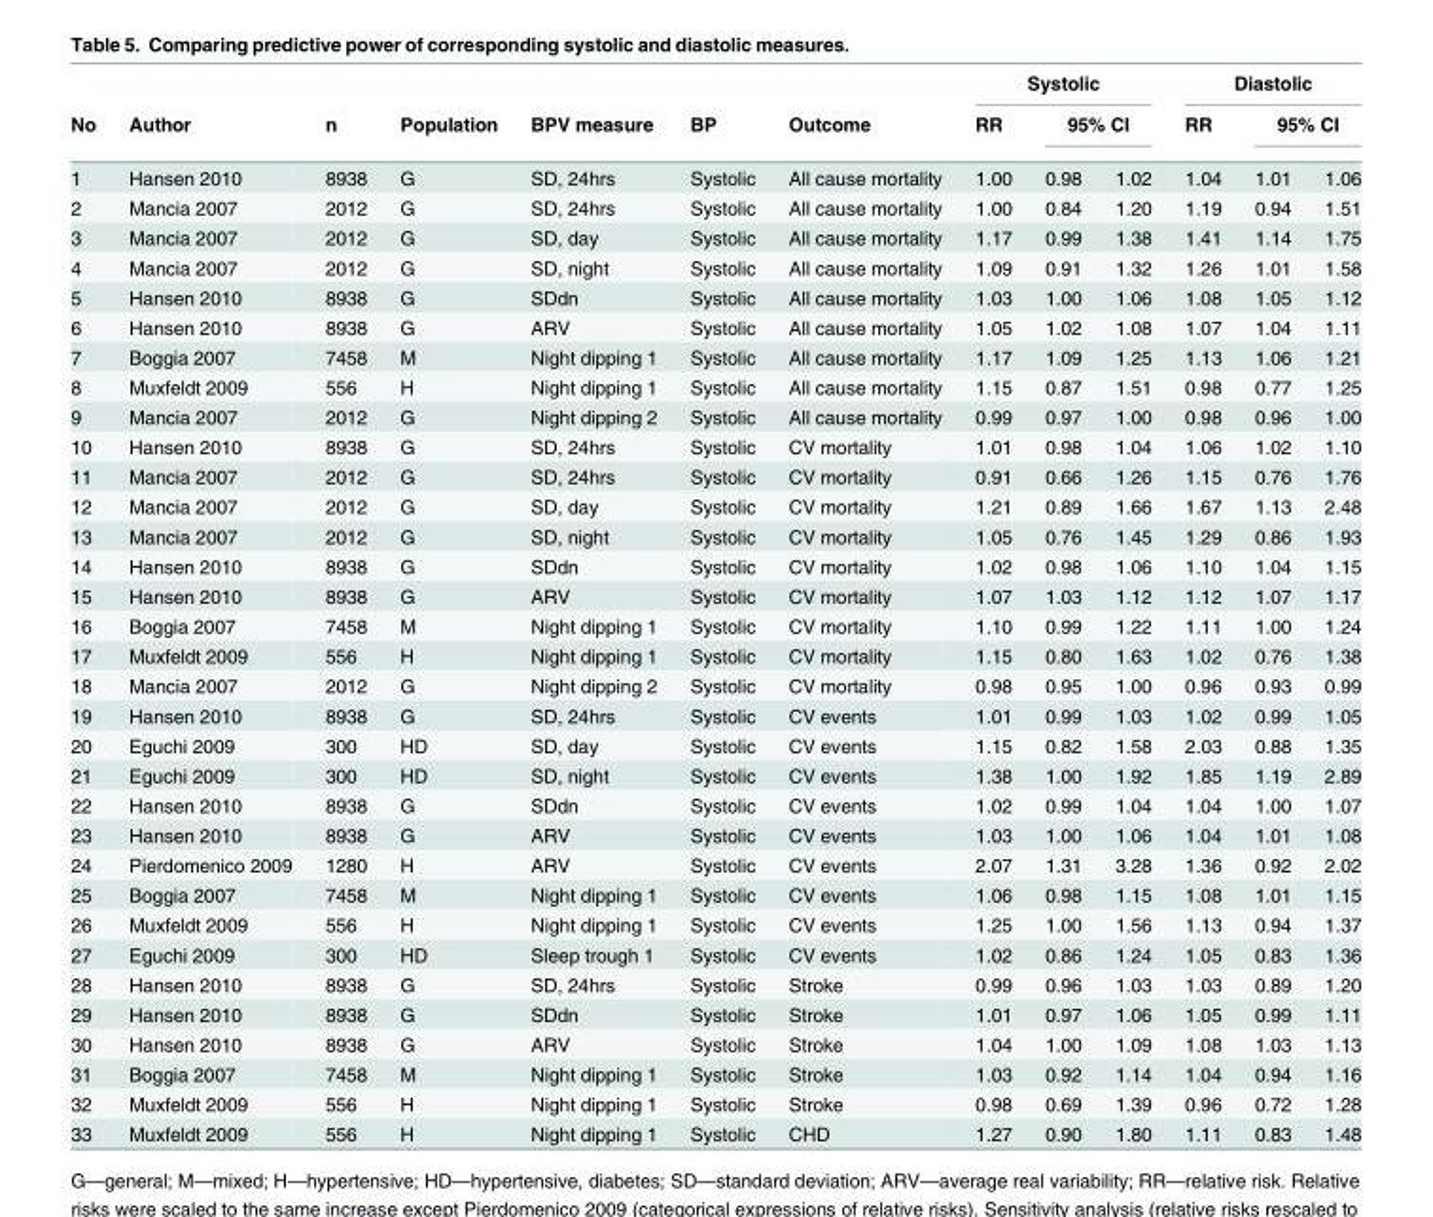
<table><thead><tr><td rowspan="3">No 1</td><td rowspan="3">Author Hansen 2010</td><td rowspan="3">n 8938</td><td rowspan="3">Population G</td><td rowspan="3">BPV measure SD, 24hrs</td><td rowspan="3">BP Systolic</td><td rowspan="3">Outcome All cause mortality</td><td colspan="3">Systolic</td><td colspan="3">Diastolic</td></tr><tr><td rowspan="2">RR 1.00</td><td colspan="2">95% CI</td><td rowspan="2">RR 1.04</td><td colspan="2">95% CI</td></tr><tr><td>0.98</td><td>1.02</td><td>1.01</td><td>1.06</td></tr></thead><tbody><tr><td>2</td><td>Mancia 2007</td><td>2012</td><td>G</td><td>SD, 24hrs</td><td>Systolic</td><td>All cause mortality</td><td>1.00</td><td>0.84</td><td>1.20</td><td>1.19</td><td>0.94</td><td>1.51</td></tr><tr><td>3</td><td>Mancia 2007</td><td>2012</td><td>G</td><td>SD, day</td><td>Systolic</td><td>All cause mortality</td><td>1.17</td><td>0.99</td><td>1.38</td><td>1.41</td><td>1.14</td><td>1.75</td></tr><tr><td>4</td><td>Mancia 2007</td><td>2012</td><td>G</td><td>SD, night</td><td>Systolic</td><td>All cause mortality</td><td>1.09</td><td>0.91</td><td>1.32</td><td>1.26</td><td>1.01</td><td>1.58</td></tr><tr><td>5</td><td>Hansen 2010</td><td>8938</td><td>G</td><td>SDdn</td><td>Systolic</td><td>All cause mortality</td><td>1.03</td><td>1.00</td><td>1.06</td><td>1.08</td><td>1.05</td><td>1.12</td></tr><tr><td>6</td><td>Hansen 2010</td><td>8938</td><td>G</td><td>ARV</td><td>Systolic</td><td>All cause mortality</td><td>1.05</td><td>1.02</td><td>1.08</td><td>1.07</td><td>1.04</td><td>1.11</td></tr><tr><td>7</td><td>Boggia 2007</td><td>7458</td><td>M</td><td>Night dipping 1</td><td>Systolic</td><td>All cause mortality</td><td>1.17</td><td>1.09</td><td>1.25</td><td>1.13</td><td>1.06</td><td>1.21</td></tr><tr><td>8</td><td>Muxfeldt 2009</td><td>556</td><td>H</td><td>Night dipping 1</td><td>Systolic</td><td>All cause mortality</td><td>1.15</td><td>0.87</td><td>1.51</td><td>0.98</td><td>0.77</td><td>1.25</td></tr><tr><td>9</td><td>Mancia 2007</td><td>2012</td><td>G</td><td>Night dipping 2</td><td>Systolic</td><td>All cause mortality</td><td>0.99</td><td>0.97</td><td>1.00</td><td>0.98</td><td>0.96</td><td>1.00</td></tr><tr><td>10</td><td>Hansen 2010</td><td>8938</td><td>G</td><td>SD, 24hrs</td><td>Systolic</td><td>CV mortality</td><td>1.01</td><td>0.98</td><td>1.04</td><td>1.06</td><td>1.02</td><td>1.10</td></tr><tr><td>11</td><td>Mancia 2007</td><td>2012</td><td>G</td><td>SD, 24hrs</td><td>Systolic</td><td>CV mortality</td><td>0.91</td><td>0.66</td><td>1.26</td><td>1.15</td><td>0.76</td><td>1.76</td></tr><tr><td>12</td><td>Mancia 2007</td><td>2012</td><td>G</td><td>SD, day</td><td>Systolic</td><td>CV mortality</td><td>1.21</td><td>0.89</td><td>1.66</td><td>1.67</td><td>1.13</td><td>2.48</td></tr><tr><td>13</td><td>Mancia 2007</td><td>2012</td><td>G</td><td>SD, night</td><td>Systolic</td><td>CV mortality</td><td>1.05</td><td>0.76</td><td>1.45</td><td>1.29</td><td>0.86</td><td>1.93</td></tr><tr><td>14</td><td>Hansen 2010</td><td>8938</td><td>G</td><td>SDdn</td><td>Systolic</td><td>CV mortality</td><td>1.02</td><td>0.98</td><td>1.06</td><td>1.10</td><td>1.04</td><td>1.15</td></tr><tr><td>15</td><td>Hansen 2010</td><td>8938</td><td>G</td><td>ARV</td><td>Systolic</td><td>CV mortality</td><td>1.07</td><td>1.03</td><td>1.12</td><td>1.12</td><td>1.07</td><td>1.17</td></tr><tr><td>16</td><td>Boggia 2007</td><td>7458</td><td>M</td><td>Night dipping 1</td><td>Systolic</td><td>CV mortality</td><td>1.10</td><td>0.99</td><td>1.22</td><td>1.11</td><td>1.00</td><td>1.24</td></tr><tr><td>17</td><td>Muxfeldt 2009</td><td>556</td><td>H</td><td>Night dipping 1</td><td>Systolic</td><td>CV mortality</td><td>1.15</td><td>0.80</td><td>1.63</td><td>1.02</td><td>0.76</td><td>1.38</td></tr><tr><td>18</td><td>Mancia 2007</td><td>2012</td><td>G</td><td>Night dipping 2</td><td>Systolic</td><td>CV mortality</td><td>0.98</td><td>0.95</td><td>1.00</td><td>0.96</td><td>0.93</td><td>0.99</td></tr><tr><td>19</td><td>Hansen 2010</td><td>8938</td><td>G</td><td>SD, 24hrs</td><td>Systolic</td><td>CV events</td><td>1.01</td><td>0.99</td><td>1.03</td><td>1.02</td><td>0.99</td><td>1.05</td></tr><tr><td>20</td><td>Eguchi 2009</td><td>300</td><td>HD</td><td>SD, day</td><td>Systolic</td><td>CV events</td><td>1.15</td><td>0.82</td><td>1.58</td><td>2.03</td><td>0.88</td><td>1.35</td></tr><tr><td>21</td><td>Eguchi 2009</td><td>300</td><td>HD</td><td>SD, night</td><td>Systolic</td><td>CV events</td><td>1.38</td><td>1.00</td><td>1.92</td><td>1.85</td><td>1.19</td><td>2.89</td></tr><tr><td>22</td><td>Hansen 2010</td><td>8938</td><td>G</td><td>SDdn</td><td>Systolic</td><td>CV events</td><td>1.02</td><td>0.99</td><td>1.04</td><td>1.04</td><td>1.00</td><td>1.07</td></tr><tr><td>23</td><td>Hansen 2010</td><td>8938</td><td>G</td><td>ARV</td><td>Systolic</td><td>CV events</td><td>1.03</td><td>1.00</td><td>1.06</td><td>1.04</td><td>1.01</td><td>1.08</td></tr><tr><td>24</td><td>Pierdomenico 2009</td><td>1280</td><td>H</td><td>ARV</td><td>Systolic</td><td>CV events</td><td>2.07</td><td>1.31</td><td>3.28</td><td>1.36</td><td>0.92</td><td>2.02</td></tr><tr><td>25</td><td>Boggia 2007</td><td>7458</td><td>M</td><td>Night dipping 1</td><td>Systolic</td><td>CV events</td><td>1.06</td><td>0.98</td><td>1.15</td><td>1.08</td><td>1.01</td><td>1.15</td></tr><tr><td>26</td><td>Muxfeldt 2009</td><td>556</td><td>H</td><td>Night dipping 1</td><td>Systolic</td><td>CV events</td><td>1.25</td><td>1.00</td><td>1.56</td><td>1.13</td><td>0.94</td><td>1.37</td></tr><tr><td>27</td><td>Eguchi 2009</td><td>300</td><td>HD</td><td>Sleep trough 1</td><td>Systolic</td><td>CV events</td><td>1.02</td><td>0.86</td><td>1.24</td><td>1.05</td><td>0.83</td><td>1.36</td></tr><tr><td>28</td><td>Hansen 2010</td><td>8938</td><td>G</td><td>SD, 24hrs</td><td>Systolic</td><td>Stroke</td><td>0.99</td><td>0.96</td><td>1.03</td><td>1.03</td><td>0.89</td><td>1.20</td></tr><tr><td>29</td><td>Hansen 2010</td><td>8938</td><td>G</td><td>SDdn</td><td>Systolic</td><td>Stroke</td><td>1.01</td><td>0.97</td><td>1.06</td><td>1.05</td><td>0.99</td><td>1.11</td></tr><tr><td>30</td><td>Hansen 2010</td><td>8938</td><td>G</td><td>ARV</td><td>Systolic</td><td>Stroke</td><td>1.04</td><td>1.00</td><td>1.09</td><td>1.08</td><td>1.03</td><td>1.13</td></tr><tr><td>31</td><td>Boggia 2007</td><td>7458</td><td>M</td><td>Night dipping 1</td><td>Systolic</td><td>Stroke</td><td>1.03</td><td>0.92</td><td>1.14</td><td>1.04</td><td>0.94</td><td>1.16</td></tr><tr><td>32</td><td>Muxfeldt 2009</td><td>556</td><td>H</td><td>Night dipping 1</td><td>Systolic</td><td>Stroke</td><td>0.98</td><td>0.69</td><td>1.39</td><td>0.96</td><td>0.72</td><td>1.28</td></tr><tr><td>33</td><td>Muxfeldt 2009</td><td>556</td><td>H</td><td>Night dipping 1</td><td>Systolic</td><td>CHD</td><td>1.27</td><td>0.90</td><td>1.80</td><td>1.11</td><td>0.83</td><td>1.48</td></tr></tbody></table>